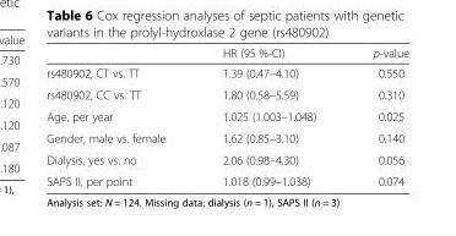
<table><thead><tr><td></td><td>HR (95 %-CI)</td><td>p-value</td></tr></thead><tbody><tr><td>rs480902, CT vs. TT</td><td>1.39 (0.47–4.10)</td><td>0.550</td></tr><tr><td>rs480902, CC vs. TT</td><td>1.80 (0.58–5.59)</td><td>0.310</td></tr><tr><td>Age, per year</td><td>1.025 (1.003–1.048)</td><td>0.025</td></tr><tr><td>Gender, male vs. female</td><td>1.62 (0.85–3.10)</td><td>0.140</td></tr><tr><td>Dialysis, yes vs. no</td><td>2.06 (0.98–4.30)</td><td>0.056</td></tr><tr><td>SAPS II, per point</td><td>1.018 (0.99–1.038)</td><td>0.074</td></tr></tbody></table>